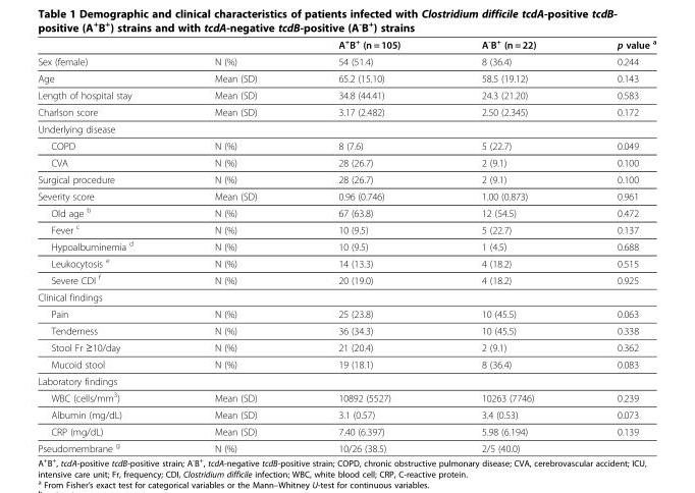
<table><thead><tr><td></td><td></td><td>A<sup>+</sup>B<sup>+</sup> (n = 105)</td><td>A<sup>-</sup>B<sup>+</sup> (n = 22)</td><td>p value <sup>a</sup></td></tr></thead><tbody><tr><td>Sex (female)</td><td>N (%)</td><td>54 (51.4)</td><td>8 (36.4)</td><td>0.244</td></tr><tr><td>Age</td><td>Mean (SD)</td><td>65.2 (15.10)</td><td>58.5 (19.12)</td><td>0.143</td></tr><tr><td>Length of hospital stay</td><td>Mean (SD)</td><td>34.8 (44.41)</td><td>24.3 (21.20)</td><td>0.583</td></tr><tr><td>Charlson score</td><td>Mean (SD)</td><td>3.17 (2.482)</td><td>2.50 (2.345)</td><td>0.172</td></tr><tr><td colspan="5">Underlying disease</td></tr><tr><td>COPD</td><td>N (%)</td><td>8 (7.6)</td><td>5 (22.7)</td><td>0.049</td></tr><tr><td>CVA</td><td>N (%)</td><td>28 (26.7)</td><td>2 (9.1)</td><td>0.100</td></tr><tr><td>Surgical procedure</td><td>N (%)</td><td>28 (26.7)</td><td>2 (9.1)</td><td>0.100</td></tr><tr><td>Severity score</td><td>Mean (SD)</td><td>0.96 (0.746)</td><td>1.00 (0.873)</td><td>0.961</td></tr><tr><td>Old age <sup>b</sup></td><td>N (%)</td><td>67 (63.8)</td><td>12 (54.5)</td><td>0.472</td></tr><tr><td>Fever <sup>c</sup></td><td>N (%)</td><td>10 (9.5)</td><td>5 (22.7)</td><td>0.137</td></tr><tr><td>Hypoalbuminemia <sup>d</sup></td><td>N (%)</td><td>10 (9.5)</td><td>1 (4.5)</td><td>0.688</td></tr><tr><td>Leukocytosis <sup>e</sup></td><td>N (%)</td><td>14 (13.3)</td><td>4 (18.2)</td><td>0.515</td></tr><tr><td>Severe CDI <sup>f</sup></td><td>N (%)</td><td>20 (19.0)</td><td>4 (18.2)</td><td>0.925</td></tr><tr><td colspan="5">Clinical findings</td></tr><tr><td>Pain</td><td>N (%)</td><td>25 (23.8)</td><td>10 (45.5)</td><td>0.063</td></tr><tr><td>Tenderness</td><td>N (%)</td><td>36 (34.3)</td><td>10 (45.5)</td><td>0.338</td></tr><tr><td>Stool Fr ≥10/day</td><td>N (%)</td><td>21 (20.4)</td><td>2 (9.1)</td><td>0.362</td></tr><tr><td>Mucoid stool</td><td>N (%)</td><td>19 (18.1)</td><td>8 (36.4)</td><td>0.083</td></tr><tr><td colspan="5">Laboratory findings</td></tr><tr><td>WBC (cells/mm<sup>3</sup>)</td><td>Mean (SD)</td><td>10892 (5527)</td><td>10263 (7746)</td><td>0.239</td></tr><tr><td>Albumin (mg/dL)</td><td>Mean (SD)</td><td>3.1 (0.57)</td><td>3.4 (0.53)</td><td>0.073</td></tr><tr><td>CRP (mg/dL)</td><td>Mean (SD)</td><td>7.40 (6.397)</td><td>5.98 (6.194)</td><td>0.139</td></tr><tr><td>Pseudomembrane <sup>g</sup></td><td>N (%)</td><td>10/26 (38.5)</td><td>2/5 (40.0)</td><td></td></tr></tbody></table>